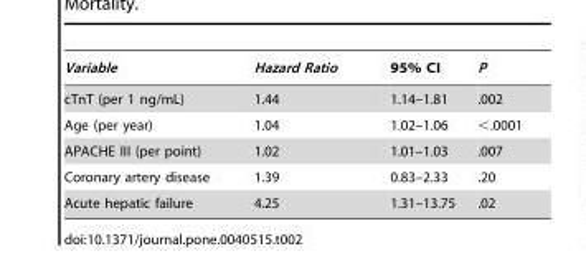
<table><thead><tr><td>Variable</td><td>Hazard Ratio</td><td>95% CI</td><td>P</td></tr></thead><tbody><tr><td>cTnT (per 1 ng/mL)</td><td>1.44</td><td>1.14–1.81</td><td>.002</td></tr><tr><td>Age (per year)</td><td>1.04</td><td>1.02–1.06</td><td>&lt;.0001</td></tr><tr><td>APACHE III (per point)</td><td>1.02</td><td>1.01–1.03</td><td>.007</td></tr><tr><td>Coronary artery disease</td><td>1.39</td><td>0.83–2.33</td><td>.20</td></tr><tr><td>Acute hepatic failure</td><td>4.25</td><td>1.31–13.75</td><td>.02</td></tr></tbody></table>